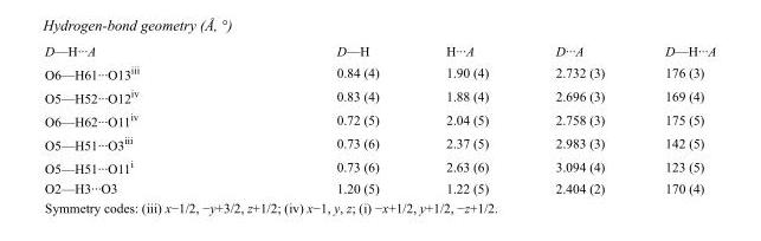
<table><tbody><tr><td>D—H···A</td><td>D—H</td><td>H···A</td><td>D···A</td><td>D—H···A</td></tr><tr><td>O6—H61···O13<sup>iii</sup></td><td>0.84 (4)</td><td>1.90 (4)</td><td>2.732 (3)</td><td>176 (3)</td></tr><tr><td>O5—H52···O12<sup>iv</sup></td><td>0.83 (4)</td><td>1.88 (4)</td><td>2.696 (3)</td><td>169 (4)</td></tr><tr><td>O6—H62···O11<sup>iv</sup></td><td>0.72 (5)</td><td>2.04 (5)</td><td>2.758 (3)</td><td>175 (5)</td></tr><tr><td>O5—H51···O3<sup>iii</sup></td><td>0.73 (6)</td><td>2.37 (5)</td><td>2.983 (3)</td><td>142 (5)</td></tr><tr><td>O5—H51···O11<sup>i</sup></td><td>0.73 (6)</td><td>2.63 (6)</td><td>3.094 (4)</td><td>123 (5)</td></tr><tr><td>O2—H3···O3</td><td>1.20 (5)</td><td>1.22 (5)</td><td>2.404 (2)</td><td>170 (4)</td></tr></tbody></table>